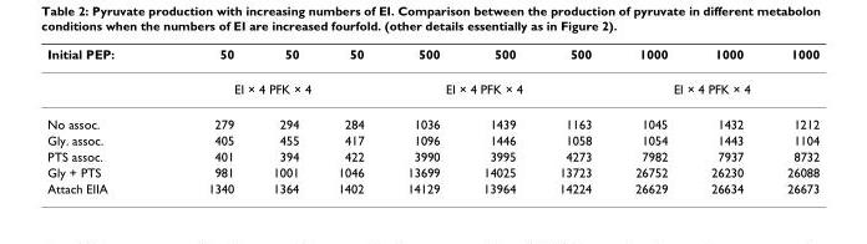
<table><thead><tr><td>Initial PEP:</td><td>50</td><td>50</td><td>50</td><td>500</td><td>500</td><td>500</td><td>1000</td><td>1000</td><td>1000</td></tr></thead><tbody><tr><td></td><td colspan="3">EI × 4 PFK × 4</td><td colspan="3">EI × 4 PFK × 4</td><td colspan="3">EI × 4 PFK × 4</td></tr><tr><td>No assoc.</td><td>279</td><td>294</td><td>284</td><td>1036</td><td>1439</td><td>1163</td><td>1045</td><td>1432</td><td>1212</td></tr><tr><td>Gly. assoc.</td><td>405</td><td>455</td><td>417</td><td>1096</td><td>1446</td><td>1058</td><td>1054</td><td>1443</td><td>1104</td></tr><tr><td>PTS assoc.</td><td>401</td><td>394</td><td>422</td><td>3990</td><td>3995</td><td>4273</td><td>7982</td><td>7937</td><td>8732</td></tr><tr><td>Gly + PTS</td><td>981</td><td>1001</td><td>1046</td><td>13699</td><td>14025</td><td>13723</td><td>26752</td><td>26230</td><td>26088</td></tr><tr><td>Attach EIIA</td><td>1340</td><td>1364</td><td>1402</td><td>14129</td><td>13964</td><td>14224</td><td>26629</td><td>26634</td><td>26673</td></tr></tbody></table>